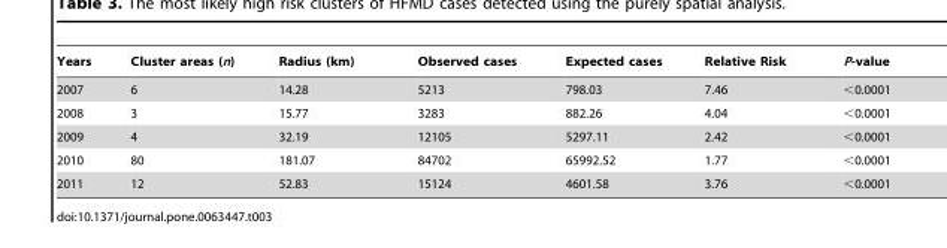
<table><thead><tr><td>Years</td><td>Cluster areas (n)</td><td>Radius (km)</td><td>Observed cases</td><td>Expected cases</td><td>Relative Risk</td><td>P-value</td></tr></thead><tbody><tr><td>2007</td><td>6</td><td>14.28</td><td>5213</td><td>798.03</td><td>7.46</td><td>&lt;0.0001</td></tr><tr><td>2008</td><td>3</td><td>15.77</td><td>3283</td><td>882.26</td><td>4.04</td><td>&lt;0.0001</td></tr><tr><td>2009</td><td>4</td><td>32.19</td><td>12105</td><td>5297.11</td><td>2.42</td><td>&lt;0.0001</td></tr><tr><td>2010</td><td>80</td><td>181.07</td><td>84702</td><td>65992.52</td><td>1.77</td><td>&lt;0.0001</td></tr><tr><td>2011</td><td>12</td><td>52.83</td><td>15124</td><td>4601.58</td><td>3.76</td><td>&lt;0.0001</td></tr></tbody></table>